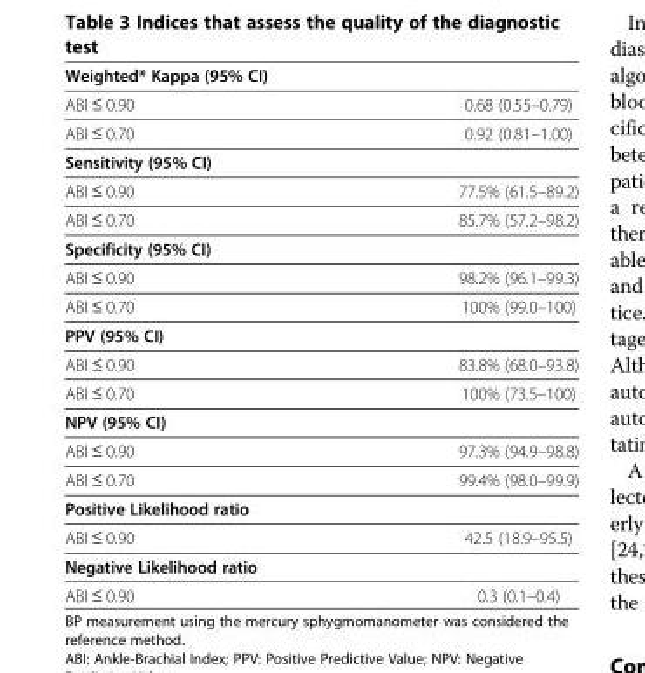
<table><thead><tr><td>Weighted* Kappa (95% CI)</td><td></td></tr></thead><tbody><tr><td>ABI ≤ 0.90</td><td>0.68 (0.55–0.79)</td></tr><tr><td>ABI ≤ 0.70</td><td>0.92 (0.81–1.00)</td></tr><tr><td colspan="2">Sensitivity (95% CI)</td></tr><tr><td>ABI ≤ 0.90</td><td>77.5% (61.5–89.2)</td></tr><tr><td>ABI ≤ 0.70</td><td>85.7% (57.2–98.2)</td></tr><tr><td colspan="2">Specificity (95% CI)</td></tr><tr><td>ABI ≤ 0.90</td><td>98.2% (96.1–99.3)</td></tr><tr><td>ABI ≤ 0.70</td><td>100% (99.0–100)</td></tr><tr><td colspan="2">PPV (95% CI)</td></tr><tr><td>ABI ≤ 0.90</td><td>83.8% (68.0–93.8)</td></tr><tr><td>ABI ≤ 0.70</td><td>100% (73.5–100)</td></tr><tr><td colspan="2">NPV (95% CI)</td></tr><tr><td>ABI ≤ 0.90</td><td>97.3% (94.9–98.8)</td></tr><tr><td>ABI ≤ 0.70</td><td>99.4% (98.0–99.9)</td></tr><tr><td colspan="2">Positive Likelihood ratio</td></tr><tr><td>ABI ≤ 0.90</td><td>42.5 (18.9–95.5)</td></tr><tr><td colspan="2">Negative Likelihood ratio</td></tr><tr><td>ABI ≤ 0.90</td><td>0.3 (0.1–0.4)</td></tr></tbody></table>